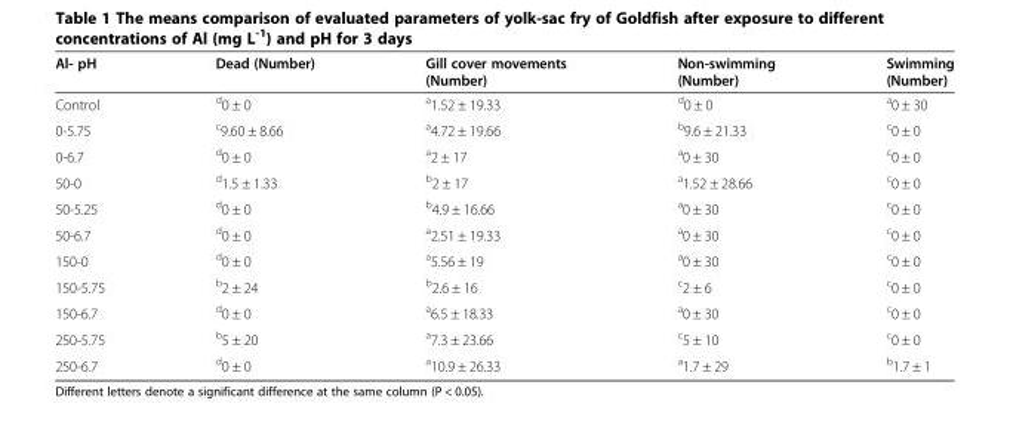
<table><thead><tr><td>Al- pH</td><td>Dead (Number)</td><td>Gill cover movements (Number)</td><td>Non-swimming (Number)</td><td>Swimming (Number)</td></tr></thead><tbody><tr><td>Control</td><td><sup>d</sup>0 ± 0</td><td><sup>a</sup>1.52 ± 19.33</td><td><sup>d</sup>0 ± 0</td><td><sup>a</sup>0 ± 30</td></tr><tr><td>0-5.75</td><td><sup>c</sup>9.60 ± 8.66</td><td><sup>a</sup>4.72 ± 19.66</td><td><sup>b</sup>9.6 ± 21.33</td><td><sup>c</sup>0 ± 0</td></tr><tr><td>0-6.7</td><td><sup>d</sup>0 ± 0</td><td><sup>a</sup>2 ± 17</td><td><sup>a</sup>0 ± 30</td><td><sup>c</sup>0 ± 0</td></tr><tr><td>50-0</td><td><sup>d</sup>1.5 ± 1.33</td><td><sup>b</sup>2 ± 17</td><td><sup>a</sup>1.52 ± 28.66</td><td><sup>c</sup>0 ± 0</td></tr><tr><td>50-5.25</td><td><sup>d</sup>0 ± 0</td><td><sup>b</sup>4.9 ± 16.66</td><td><sup>a</sup>0 ± 30</td><td><sup>c</sup>0 ± 0</td></tr><tr><td>50-6.7</td><td><sup>d</sup>0 ± 0</td><td><sup>a</sup>2.51 ± 19.33</td><td><sup>a</sup>0 ± 30</td><td><sup>c</sup>0 ± 0</td></tr><tr><td>150-0</td><td><sup>d</sup>0 ± 0</td><td><sup>a</sup>5.56 ± 19</td><td><sup>a</sup>0 ± 30</td><td><sup>c</sup>0 ± 0</td></tr><tr><td>150-5.75</td><td><sup>b</sup>2 ± 24</td><td><sup>b</sup>2.6 ± 16</td><td><sup>c</sup>2 ± 6</td><td><sup>c</sup>0 ± 0</td></tr><tr><td>150-6.7</td><td><sup>d</sup>0 ± 0</td><td><sup>a</sup>6.5 ± 18.33</td><td><sup>a</sup>0 ± 30</td><td><sup>c</sup>0 ± 0</td></tr><tr><td>250-5.75</td><td><sup>b</sup>5 ± 20</td><td><sup>a</sup>7.3 ± 23.66</td><td><sup>c</sup>5 ± 10</td><td><sup>c</sup>0 ± 0</td></tr><tr><td>250-6.7</td><td><sup>d</sup>0 ± 0</td><td><sup>a</sup>10.9 ± 26.33</td><td><sup>a</sup>1.7 ± 29</td><td><sup>b</sup>1.7 ± 1</td></tr></tbody></table>